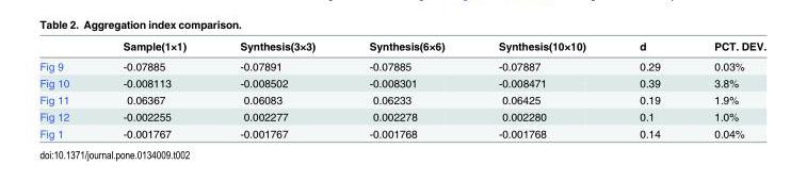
<table><thead><tr><td></td><td>Sample(1×1)</td><td>Synthesis(3×3)</td><td>Synthesis(6×6)</td><td>Synthesis(10×10)</td><td>d</td><td>PCT. DEV.</td></tr></thead><tbody><tr><td>Fig 9</td><td>-0.07885</td><td>-0.07891</td><td>-0.07885</td><td>-0.07887</td><td>0.29</td><td>0.03%</td></tr><tr><td>Fig 10</td><td>-0.008113</td><td>-0.008502</td><td>-0.008301</td><td>-0.008471</td><td>0.39</td><td>3.8%</td></tr><tr><td>Fig 11</td><td>0.06367</td><td>0.06083</td><td>0.06233</td><td>0.06425</td><td>0.19</td><td>1.9%</td></tr><tr><td>Fig 12</td><td>-0.002255</td><td>0.002277</td><td>0.002278</td><td>0.002280</td><td>0.1</td><td>1.0%</td></tr><tr><td>Fig 1</td><td>-0.001767</td><td>-0.001767</td><td>-0.001768</td><td>-0.001768</td><td>0.14</td><td>0.04%</td></tr></tbody></table>